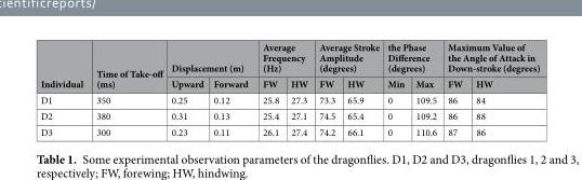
<table><thead><tr><td rowspan="2">Individual</td><td rowspan="2">Time of Take-off (ms)</td><td colspan="2">Displacement (m)</td><td colspan="2">Average Frequency (Hz)</td><td colspan="2">Average Stroke Amplitude (degrees)</td><td colspan="2">the Phase Difference (degrees)</td><td colspan="2">Maximum Value of the Angle of Attack in Down-stroke (degrees)</td></tr><tr><td>Upward</td><td>Forward</td><td>FW</td><td>HW</td><td>FW</td><td>HW</td><td>Min</td><td>Max</td><td>FW</td><td>HW</td></tr></thead><tbody><tr><td>D1</td><td>350</td><td>0.25</td><td>0.12</td><td>25.8</td><td>27.3</td><td>73.3</td><td>65.9</td><td>0</td><td>109.5</td><td>86</td><td>84</td></tr><tr><td>D2</td><td>380</td><td>0.31</td><td>0.13</td><td>25.4</td><td>27.1</td><td>74.5</td><td>65.4</td><td>0</td><td>109.2</td><td>86</td><td>88</td></tr><tr><td>D3</td><td>300</td><td>0.23</td><td>0.11</td><td>26.1</td><td>27.4</td><td>74.2</td><td>66.1</td><td>0</td><td>110.6</td><td>87</td><td>86</td></tr></tbody></table>